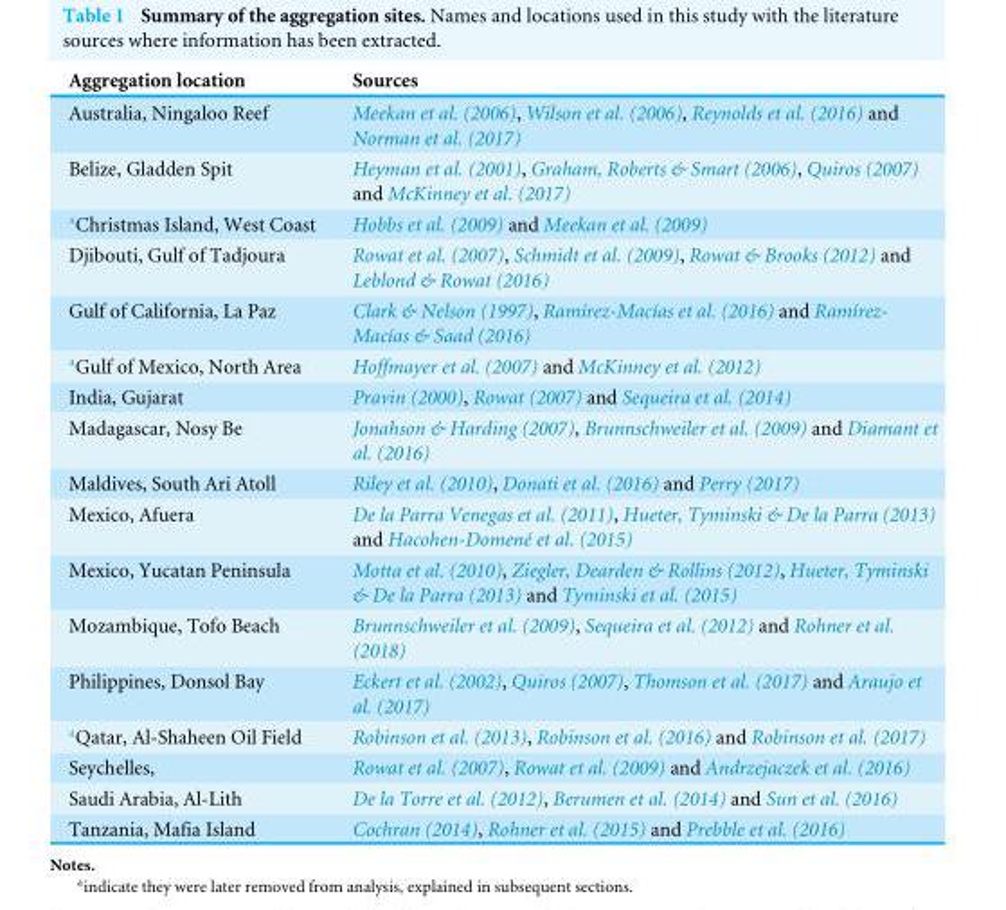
<table><thead><tr><td>Aggregation location</td><td>Sources</td></tr></thead><tbody><tr><td>Australia, Ningaloo Reef</td><td>Meekan et al. (2006), Wilson et al. (2006), Reynolds et al. (2016) and Norman et al. (2017)</td></tr><tr><td>Belize, Gladden Spit</td><td>Heyman et al. (2001), Graham, Roberts &amp; Smart (2006), Quiros (2007) and McKinney et al. (2017)</td></tr><tr><td><sup>a</sup>Christmas Island, West Coast</td><td>Hobbs et al. (2009) and Meekan et al. (2009)</td></tr><tr><td>Djibouti, Gulf of Tadjoura</td><td>Rowat et al. (2007), Schmidt et al. (2009), Rowat &amp; Brooks (2012) and Leblond &amp; Rowat (2016)</td></tr><tr><td>Gulf of California, La Paz</td><td>Clark &amp; Nelson (1997), Ramírez-Macías et al. (2016) and Ramírez- Macías &amp; Saad (2016)</td></tr><tr><td><sup>a</sup>Gulf of Mexico, North Area</td><td>Hoffmayer et al. (2007) and McKinney et al. (2012)</td></tr><tr><td>India, Gujarat</td><td>Pravin (2000), Rowat (2007) and Sequeira et al. (2014)</td></tr><tr><td>Madagascar, Nosy Be</td><td>Jonahson &amp; Harding (2007), Brunnschweiler et al. (2009) and Diamant et al. (2016)</td></tr><tr><td>Maldives, South Ari Atoll</td><td>Riley et al. (2010), Donati et al. (2016) and Perry (2017)</td></tr><tr><td>Mexico, Afuera</td><td>De la Parra Venegas et al. (2011), Hueter, Tyminski &amp; De la Parra (2013) and Hacohen-Domené et al. (2015)</td></tr><tr><td>Mexico, Yucatan Peninsula</td><td>Motta et al. (2010), Ziegler, Dearden &amp; Rollins (2012), Hueter, Tyminski &amp; De la Parra (2013) and Tyminski et al. (2015)</td></tr><tr><td>Mozambique, Tofo Beach</td><td>Brunnschweiler et al. (2009), Sequeira et al. (2012) and Rohner et al. (2018)</td></tr><tr><td>Philippines, Donsol Bay</td><td>Eckert et al. (2002), Quiros (2007), Thomson et al. (2017) and Araujo et al. (2017)</td></tr><tr><td><sup>a</sup>Qatar, Al-Shaheen Oil Field</td><td>Robinson et al. (2013), Robinson et al. (2016) and Robinson et al. (2017)</td></tr><tr><td>Seychelles,</td><td>Rowat et al. (2007), Rowat et al. (2009) and Andrzejaczek et al. (2016)</td></tr><tr><td>Saudi Arabia, Al-Lith</td><td>De la Torre et al. (2012), Berumen et al. (2014) and Sun et al. (2016)</td></tr><tr><td>Tanzania, Mafia Island</td><td>Cochran (2014), Rohner et al. (2015) and Prebble et al. (2016)</td></tr></tbody></table>